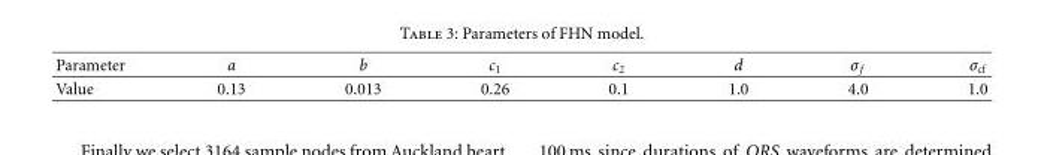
<table><thead><tr><td>Parameter</td><td>a</td><td>b</td><td>c<sub>1</sub></td><td>c<sub>2</sub></td><td>d</td><td>σ <sub>f</sub></td><td>σ<sub>cf</sub></td></tr></thead><tbody><tr><td>Value</td><td>0.13</td><td>0.013</td><td>0.26</td><td>0.1</td><td>1.0</td><td>4.0</td><td>1.0</td></tr></tbody></table>